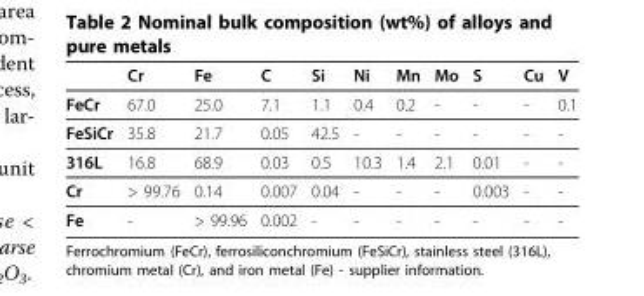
<table><thead><tr><td></td><td>Cr</td><td>Fe</td><td>C</td><td>Si</td><td>Ni</td><td>Mn</td><td>Mo</td><td>S</td><td>Cu</td><td>V</td></tr></thead><tbody><tr><td>FeCr</td><td>67.0</td><td>25.0</td><td>7.1</td><td>1.1</td><td>0.4</td><td>0.2</td><td>-</td><td>-</td><td>-</td><td>0.1</td></tr><tr><td>FeSiCr</td><td>35.8</td><td>21.7</td><td>0.05</td><td>42.5</td><td>-</td><td>-</td><td>-</td><td>-</td><td>-</td><td>-</td></tr><tr><td>316L</td><td>16.8</td><td>68.9</td><td>0.03</td><td>0.5</td><td>10.3</td><td>1.4</td><td>2.1</td><td>0.01</td><td>-</td><td>-</td></tr><tr><td>Cr</td><td>&gt; 99.76</td><td>0.14</td><td>0.007</td><td>0.04</td><td>-</td><td>-</td><td>-</td><td>0.003</td><td>-</td><td>-</td></tr><tr><td>Fe</td><td>-</td><td>&gt; 99.96</td><td>0.002</td><td>-</td><td>-</td><td>-</td><td>-</td><td>-</td><td>-</td><td>-</td></tr></tbody></table>